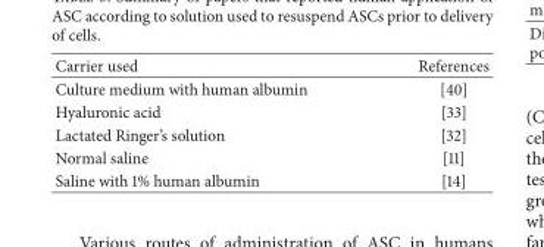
<table><thead><tr><td>Carrier used</td><td>References</td></tr></thead><tbody><tr><td>Culture medium with human albumin</td><td>[40]</td></tr><tr><td>Hyaluronic acid</td><td>[33]</td></tr><tr><td>Lactated Ringer’s solution</td><td>[32]</td></tr><tr><td>Normal saline</td><td>[11]</td></tr><tr><td>Saline with 1% human albumin</td><td>[14]</td></tr></tbody></table>